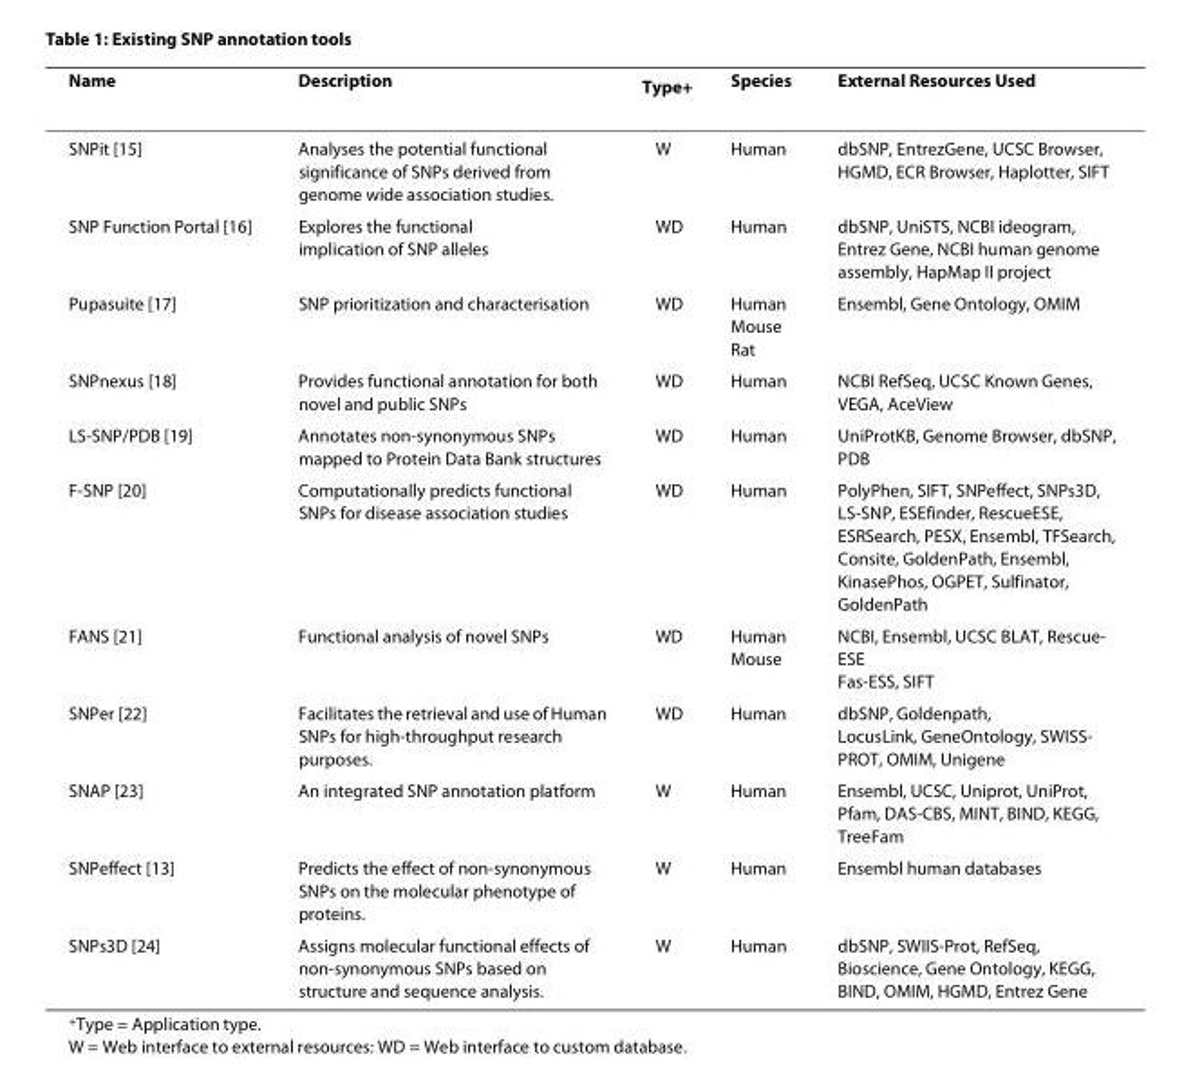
<table><thead><tr><td>Name</td><td>Description</td><td>Type<sup>+</sup></td><td>Species</td><td>External Resources Used</td></tr></thead><tbody><tr><td>SNPit [15]</td><td>Analyses the potential functional significance of SNPs derived from genome wide association studies.</td><td>W</td><td>Human</td><td>dbSNP, EntrezGene, UCSC Browser, HGMD, ECR Browser, Haplotter, SIFT</td></tr><tr><td>SNP Function Portal [16]</td><td>Explores the functional implication of SNP alleles</td><td>WD</td><td>Human</td><td>dbSNP, UniSTS, NCBI ideogram, Entrez Gene, NCBI human genome assembly, HapMap II project</td></tr><tr><td>Pupasuite [17]</td><td>SNP prioritization and characterisation</td><td>WD</td><td>Human Mouse Rat</td><td>Ensembl, Gene Ontology, OMIM</td></tr><tr><td>SNPnexus [18]</td><td>Provides functional annotation for both novel and public SNPs</td><td>WD</td><td>Human</td><td>NCBI RefSeq, UCSC Known Genes, VEGA, AceView</td></tr><tr><td>LS-SNP/PDB [19]</td><td>Annotates non-synonymous SNPs mapped to Protein Data Bank structures</td><td>WD</td><td>Human</td><td>UniProtKB, Genome Browser, dbSNP, PDB</td></tr><tr><td>F-SNP [20]</td><td>Computationally predicts functional SNPs for disease association studies</td><td>WD</td><td>Human</td><td>PolyPhen, SIFT, SNPeffect, SNPs3D, LS-SNP, ESEfinder, RescueESE, ESRSearch, PESX, Ensembl, TFSearch, Consite, GoldenPath, Ensembl, KinasePhos, OGPET, Sulfinator, GoldenPath</td></tr><tr><td>FANS [21]</td><td>Functional analysis of novel SNPs</td><td>WD</td><td>Human Mouse</td><td>NCBI, Ensembl, UCSC BLAT, Rescue- ESE Fas-ESS, SIFT</td></tr><tr><td>SNPer [22]</td><td>Facilitates the retrieval and use of Human SNPs for high-throughput research purposes.</td><td>WD</td><td>Human</td><td>dbSNP, Goldenpath, LocusLink, GeneOntology, SWISS- PROT, OMIM, Unigene</td></tr><tr><td>SNAP [23]</td><td>An integrated SNP annotation platform</td><td>W</td><td>Human</td><td>Ensembl, UCSC, Uniprot, UniProt, Pfam, DAS-CBS, MINT, BIND, KEGG, TreeFam</td></tr><tr><td>SNPeffect [13]</td><td>Predicts the effect of non-synonymous SNPs on the molecular phenotype of proteins.</td><td>W</td><td>Human</td><td>Ensembl human databases</td></tr><tr><td>SNPs3D [24]</td><td>Assigns molecular functional effects of non-synonymous SNPs based on structure and sequence analysis.</td><td>W</td><td>Human</td><td>dbSNP, SWIIS-Prot, RefSeq, Bioscience, Gene Ontology, KEGG, BIND, OMIM, HGMD, Entrez Gene</td></tr></tbody></table>